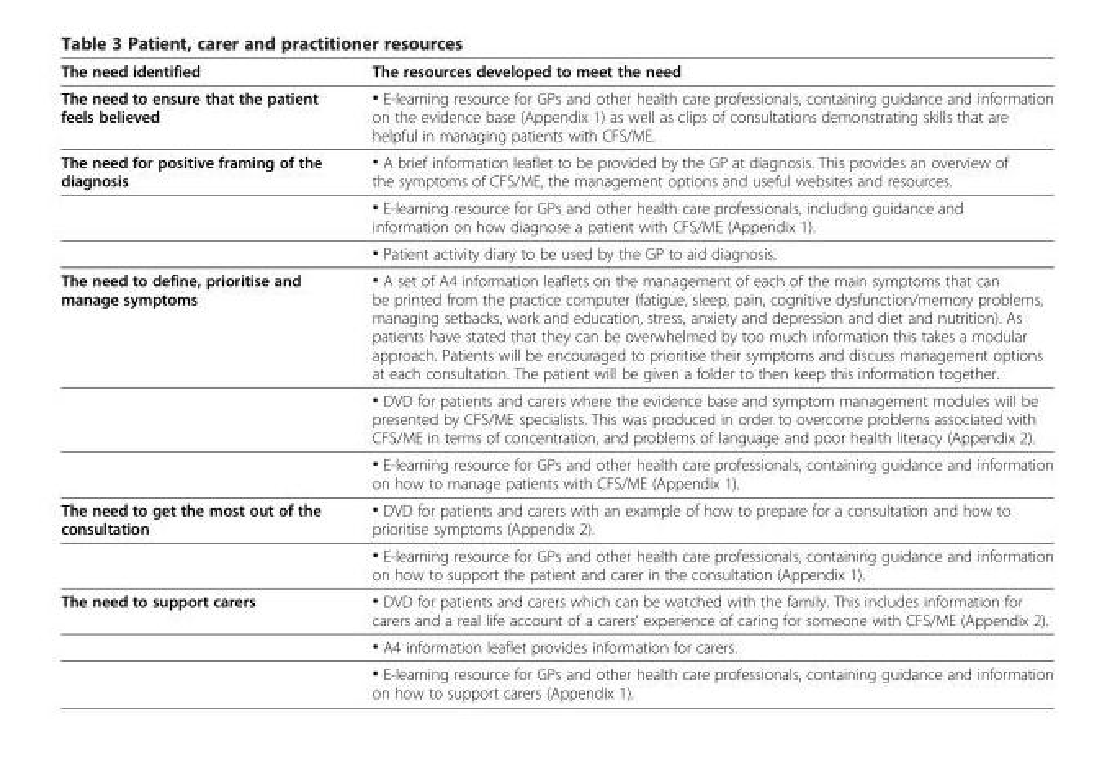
<table><thead><tr><td>The need identified</td><td>The resources developed to meet the need</td></tr></thead><tbody><tr><td>The need to ensure that the patient feels believed</td><td>• E-learning resource for GPs and other health care professionals, containing guidance and information on the evidence base (Appendix 1) as well as clips of consultations demonstrating skills that are helpful in managing patients with CFS/ME.</td></tr><tr><td rowspan="3">The need for positive framing of the diagnosis</td><td>• A brief information leaflet to be provided by the GP at diagnosis. This provides an overview of the symptoms of CFS/ME, the management options and useful websites and resources.</td></tr><tr><td>• E-learning resource for GPs and other health care professionals, including guidance and information on how diagnose a patient with CFS/ME (Appendix 1).</td></tr><tr><td>• Patient activity diary to be used by the GP to aid diagnosis.</td></tr><tr><td rowspan="3">The need to define, prioritise and manage symptoms</td><td>• A set of A4 information leaflets on the management of each of the main symptoms that can be printed from the practice computer (fatigue, sleep, pain, cognitive dysfunction/memory problems, managing setbacks, work and education, stress, anxiety and depression and diet and nutrition). As patients have stated that they can be overwhelmed by too much information this takes a modular approach. Patients will be encouraged to prioritise their symptoms and discuss management options at each consultation. The patient will be given a folder to then keep this information together.</td></tr><tr><td>• DVD for patients and carers where the evidence base and symptom management modules will be presented by CFS/ME specialists. This was produced in order to overcome problems associated with CFS/ME in terms of concentration, and problems of language and poor health literacy (Appendix 2).</td></tr><tr><td>• E-learning resource for GPs and other health care professionals, containing guidance and information on how to manage patients with CFS/ME (Appendix 1).</td></tr><tr><td rowspan="2">The need to get the most out of the consultation</td><td>• DVD for patients and carers with an example of how to prepare for a consultation and how to prioritise symptoms (Appendix 2).</td></tr><tr><td>• E-learning resource for GPs and other health care professionals, containing guidance and information on how to support the patient and carer in the consultation (Appendix 1).</td></tr><tr><td rowspan="3">The need to support carers</td><td>• DVD for patients and carers which can be watched with the family. This includes information for carers and a real life account of a carers’ experience of caring for someone with CFS/ME (Appendix 2).</td></tr><tr><td>• A4 information leaflet provides information for carers.</td></tr><tr><td>• E-learning resource for GPs and other health care professionals, containing guidance and information on how to support carers (Appendix 1).</td></tr></tbody></table>